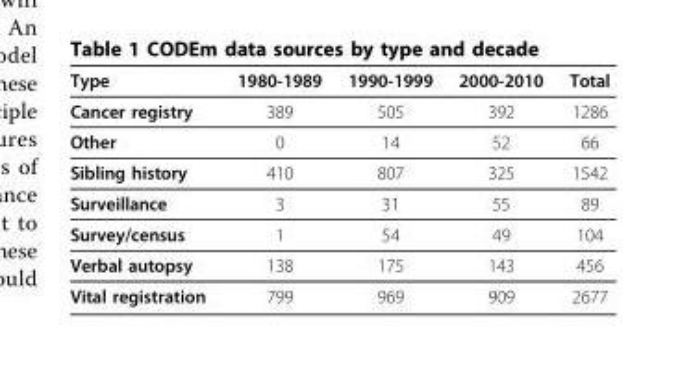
<table><thead><tr><td>Type</td><td>1980-1989</td><td>1990-1999</td><td>2000-2010</td><td>Total</td></tr></thead><tbody><tr><td>Cancer registry</td><td>389</td><td>505</td><td>392</td><td>1286</td></tr><tr><td>Other</td><td>0</td><td>14</td><td>52</td><td>66</td></tr><tr><td>Sibling history</td><td>410</td><td>807</td><td>325</td><td>1542</td></tr><tr><td>Surveillance</td><td>3</td><td>31</td><td>55</td><td>89</td></tr><tr><td>Survey/census</td><td>1</td><td>54</td><td>49</td><td>104</td></tr><tr><td>Verbal autopsy</td><td>138</td><td>175</td><td>143</td><td>456</td></tr><tr><td>Vital registration</td><td>799</td><td>969</td><td>909</td><td>2677</td></tr></tbody></table>